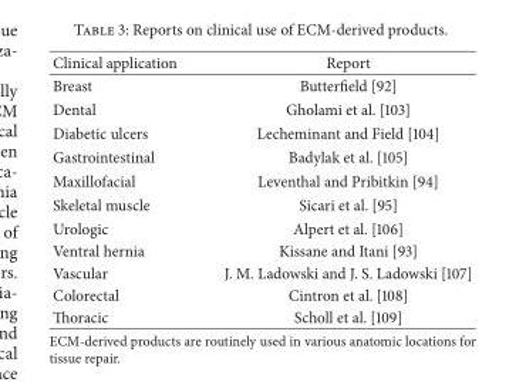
<table><thead><tr><td>Clinical application</td><td>Report</td></tr></thead><tbody><tr><td>Breast</td><td>Butterfield [92]</td></tr><tr><td>Dental</td><td>Gholami et al. [103]</td></tr><tr><td>Diabetic ulcers</td><td>Lecheminant and Field [104]</td></tr><tr><td>Gastrointestinal</td><td>Badylak et al. [105]</td></tr><tr><td>Maxillofacial</td><td>Leventhal and Pribitkin [94]</td></tr><tr><td>Skeletal muscle</td><td>Sicari et al. [95]</td></tr><tr><td>Urologic</td><td>Alpert et al. [106]</td></tr><tr><td>Ventral hernia</td><td>Kissane and Itani [93]</td></tr><tr><td>Vascular</td><td>J. M. Ladowski and J. S. Ladowski [107]</td></tr><tr><td>Colorectal</td><td>Cintron et al. [108]</td></tr><tr><td>Thoracic</td><td>Scholl et al. [109]</td></tr></tbody></table>